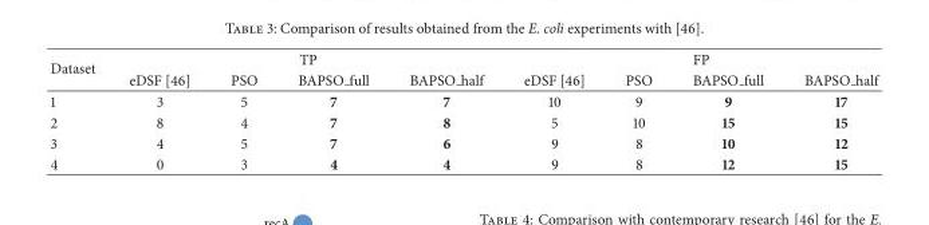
<table><thead><tr><td rowspan="2">Dataset</td><td colspan="4">TP</td><td colspan="4">FP</td></tr><tr><td>eDSF [46]</td><td>PSO</td><td>BAPSO full</td><td>BAPSO half</td><td>eDSF [46]</td><td>PSO</td><td>BAPSO full</td><td>BAPSO half</td></tr></thead><tbody><tr><td>1</td><td>3</td><td>5</td><td>7</td><td>7</td><td>10</td><td>9</td><td>9</td><td>17</td></tr><tr><td>2</td><td>8</td><td>4</td><td>7</td><td>8</td><td>5</td><td>10</td><td>15</td><td>15</td></tr><tr><td>3</td><td>4</td><td>5</td><td>7</td><td>6</td><td>9</td><td>8</td><td>10</td><td>12</td></tr><tr><td>4</td><td>0</td><td>3</td><td>4</td><td>4</td><td>9</td><td>8</td><td>12</td><td>15</td></tr></tbody></table>